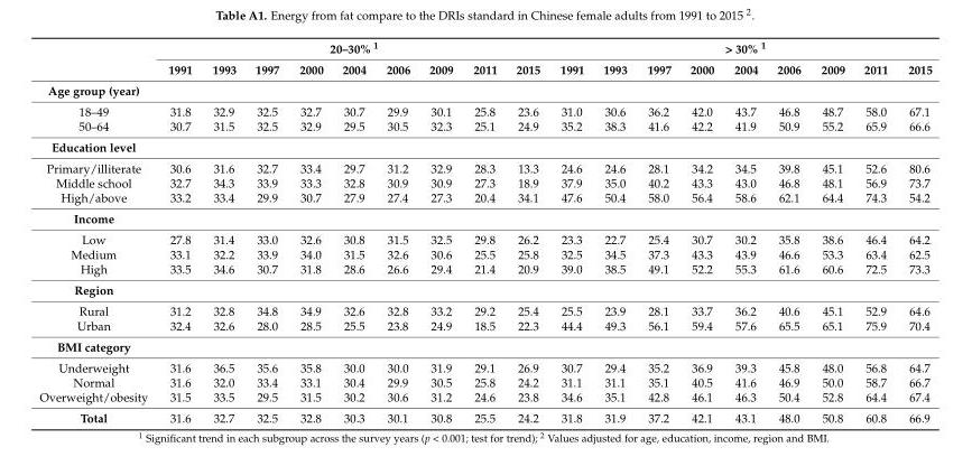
<table><thead><tr><td rowspan="2"></td><td colspan="9">20–30% <sup>1</sup></td><td colspan="9">&gt; 30% <sup>1</sup></td></tr><tr><td>1991</td><td>1993</td><td>1997</td><td>2000</td><td>2004</td><td>2006</td><td>2009</td><td>2011</td><td>2015</td><td>1991</td><td>1993</td><td>1997</td><td>2000</td><td>2004</td><td>2006</td><td>2009</td><td>2011</td><td>2015</td></tr></thead><tbody><tr><td colspan="19">Age group (year)</td></tr><tr><td>18–49</td><td>31.8</td><td>32.9</td><td>32.5</td><td>32.7</td><td>30.7</td><td>29.9</td><td>30.1</td><td>25.8</td><td>23.6</td><td>31.0</td><td>30.6</td><td>36.2</td><td>42.0</td><td>43.7</td><td>46.8</td><td>48.7</td><td>58.0</td><td>67.1</td></tr><tr><td>50–64</td><td>30.7</td><td>31.5</td><td>32.5</td><td>32.9</td><td>29.5</td><td>30.5</td><td>32.3</td><td>25.1</td><td>24.9</td><td>35.2</td><td>38.3</td><td>41.6</td><td>42.2</td><td>41.9</td><td>50.9</td><td>55.2</td><td>65.9</td><td>66.6</td></tr><tr><td colspan="19">Education level</td></tr><tr><td>Primary/illiterate</td><td>30.6</td><td>31.6</td><td>32.7</td><td>33.4</td><td>29.7</td><td>31.2</td><td>32.9</td><td>28.3</td><td>13.3</td><td>24.6</td><td>24.6</td><td>28.1</td><td>34.2</td><td>34.5</td><td>39.8</td><td>45.1</td><td>52.6</td><td>80.6</td></tr><tr><td>Middle school</td><td>32.7</td><td>34.3</td><td>33.9</td><td>33.3</td><td>32.8</td><td>30.9</td><td>30.9</td><td>27.3</td><td>18.9</td><td>37.9</td><td>35.0</td><td>40.2</td><td>43.3</td><td>43.0</td><td>46.8</td><td>48.1</td><td>56.9</td><td>73.7</td></tr><tr><td>High/above</td><td>33.2</td><td>33.4</td><td>29.9</td><td>30.7</td><td>27.9</td><td>27.4</td><td>27.3</td><td>20.4</td><td>34.1</td><td>47.6</td><td>50.4</td><td>58.0</td><td>56.4</td><td>58.6</td><td>62.1</td><td>64.4</td><td>74.3</td><td>54.2</td></tr><tr><td colspan="19">Income</td></tr><tr><td>Low</td><td>27.8</td><td>31.4</td><td>33.0</td><td>32.6</td><td>30.8</td><td>31.5</td><td>32.5</td><td>29.8</td><td>26.2</td><td>23.3</td><td>22.7</td><td>25.4</td><td>30.7</td><td>30.2</td><td>35.8</td><td>38.6</td><td>46.4</td><td>64.2</td></tr><tr><td>Medium</td><td>33.1</td><td>32.2</td><td>33.9</td><td>34.0</td><td>31.5</td><td>32.6</td><td>30.6</td><td>25.5</td><td>25.8</td><td>32.5</td><td>34.5</td><td>37.3</td><td>43.3</td><td>43.9</td><td>46.6</td><td>53.3</td><td>63.4</td><td>62.5</td></tr><tr><td>High</td><td>33.5</td><td>34.6</td><td>30.7</td><td>31.8</td><td>28.6</td><td>26.6</td><td>29.4</td><td>21.4</td><td>20.9</td><td>39.0</td><td>38.5</td><td>49.1</td><td>52.2</td><td>55.3</td><td>61.6</td><td>60.6</td><td>72.5</td><td>73.3</td></tr><tr><td colspan="19">Region</td></tr><tr><td>Rural</td><td>31.2</td><td>32.8</td><td>34.8</td><td>34.9</td><td>32.6</td><td>32.8</td><td>33.2</td><td>29.2</td><td>25.4</td><td>25.5</td><td>23.9</td><td>28.1</td><td>33.7</td><td>36.2</td><td>40.6</td><td>45.1</td><td>52.9</td><td>64.6</td></tr><tr><td>Urban</td><td>32.4</td><td>32.6</td><td>28.0</td><td>28.5</td><td>25.5</td><td>23.8</td><td>24.9</td><td>18.5</td><td>22.3</td><td>44.4</td><td>49.3</td><td>56.1</td><td>59.4</td><td>57.6</td><td>65.5</td><td>65.1</td><td>75.9</td><td>70.4</td></tr><tr><td colspan="19">BMI category</td></tr><tr><td>Underweight</td><td>31.6</td><td>36.5</td><td>35.6</td><td>35.8</td><td>30.0</td><td>30.0</td><td>31.9</td><td>29.1</td><td>26.9</td><td>30.7</td><td>29.4</td><td>35.2</td><td>36.9</td><td>39.3</td><td>45.8</td><td>48.0</td><td>56.8</td><td>64.7</td></tr><tr><td>Normal</td><td>31.6</td><td>32.0</td><td>33.4</td><td>33.1</td><td>30.4</td><td>29.9</td><td>30.5</td><td>25.8</td><td>24.2</td><td>31.1</td><td>31.1</td><td>35.1</td><td>40.5</td><td>41.6</td><td>46.9</td><td>50.0</td><td>58.7</td><td>66.7</td></tr><tr><td>Overweight/obesity</td><td>31.5</td><td>33.5</td><td>29.5</td><td>31.5</td><td>30.2</td><td>30.6</td><td>31.2</td><td>24.6</td><td>23.8</td><td>34.6</td><td>35.1</td><td>42.8</td><td>46.1</td><td>46.3</td><td>50.4</td><td>52.8</td><td>64.4</td><td>67.4</td></tr><tr><td>Total</td><td>31.6</td><td>32.7</td><td>32.5</td><td>32.8</td><td>30.3</td><td>30.1</td><td>30.8</td><td>25.5</td><td>24.2</td><td>31.8</td><td>31.9</td><td>37.2</td><td>42.1</td><td>43.1</td><td>48.0</td><td>50.8</td><td>60.8</td><td>66.9</td></tr></tbody></table>